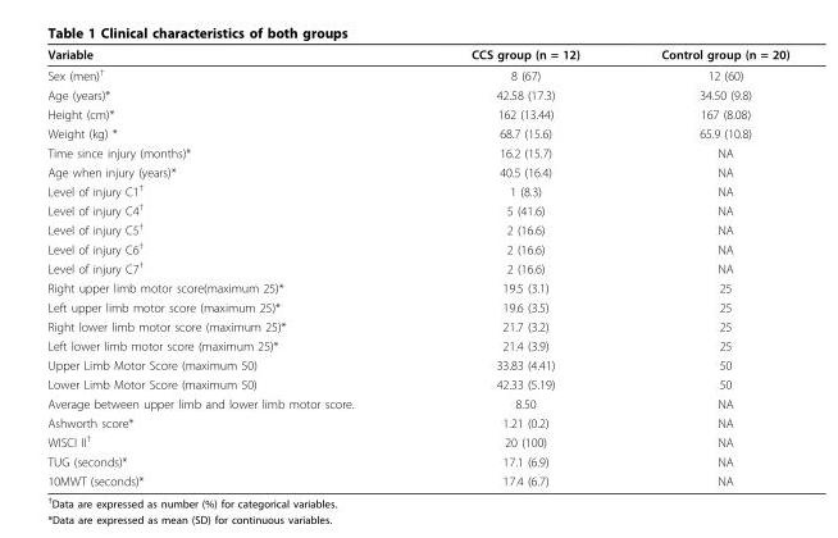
<table><thead><tr><td>Variable</td><td>CCS group (n = 12)</td><td>Control group (n = 20)</td></tr></thead><tbody><tr><td>Sex (men)<sup>†</sup></td><td>8 (67)</td><td>12 (60)</td></tr><tr><td>Age (years)*</td><td>42.58 (17.3)</td><td>34.50 (9.8)</td></tr><tr><td>Height (cm)*</td><td>162 (13.44)</td><td>167 (8.08)</td></tr><tr><td>Weight (kg) *</td><td>68.7 (15.6)</td><td>65.9 (10.8)</td></tr><tr><td>Time since injury (months)*</td><td>16.2 (15.7)</td><td>NA</td></tr><tr><td>Age when injury (years)*</td><td>40.5 (16.4)</td><td>NA</td></tr><tr><td>Level of injury C1<sup>†</sup></td><td>1 (8.3)</td><td>NA</td></tr><tr><td>Level of injury C4<sup>†</sup></td><td>5 (41.6)</td><td>NA</td></tr><tr><td>Level of injury C5<sup>†</sup></td><td>2 (16.6)</td><td>NA</td></tr><tr><td>Level of injury C6<sup>†</sup></td><td>2 (16.6)</td><td>NA</td></tr><tr><td>Level of injury C7<sup>†</sup></td><td>2 (16.6)</td><td>NA</td></tr><tr><td>Right upper limb motor score(maximum 25)*</td><td>19.5 (3.1)</td><td>25</td></tr><tr><td>Left upper limb motor score (maximum 25)*</td><td>19.6 (3.5)</td><td>25</td></tr><tr><td>Right lower limb motor score (maximum 25)*</td><td>21.7 (3.2)</td><td>25</td></tr><tr><td>Left lower limb motor score (maximum 25)*</td><td>21.4 (3.9)</td><td>25</td></tr><tr><td>Upper Limb Motor Score (maximum 50)</td><td>33.83 (4.41)</td><td>50</td></tr><tr><td>Lower Limb Motor Score (maximum 50)</td><td>42.33 (5.19)</td><td>50</td></tr><tr><td>Average between upper limb and lower limb motor score.</td><td>8.50</td><td>NA</td></tr><tr><td>Ashworth score*</td><td>1.21 (0.2)</td><td>NA</td></tr><tr><td>WISCI II<sup>†</sup></td><td>20 (100)</td><td>NA</td></tr><tr><td>TUG (seconds)*</td><td>17.1 (6.9)</td><td>NA</td></tr><tr><td>10MWT (seconds)*</td><td>17.4 (6.7)</td><td>NA</td></tr></tbody></table>